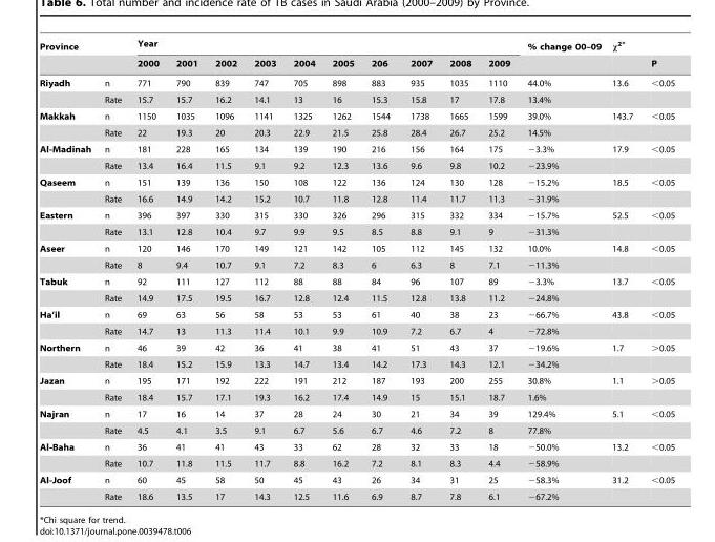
<table><thead><tr><td colspan="2">Province</td><td colspan="10">Year</td><td rowspan="2">% change 00–09</td><td rowspan="2">κ<sup>2</sup>*</td><td rowspan="2">P</td></tr><tr><td></td><td></td><td>2000</td><td>2001</td><td>2002</td><td>2003</td><td>2004</td><td>2005</td><td>206</td><td>2007</td><td>2008</td><td>2009</td></tr></thead><tbody><tr><td rowspan="2">Riyadh</td><td>n</td><td>771</td><td>790</td><td>839</td><td>747</td><td>705</td><td>898</td><td>883</td><td>935</td><td>1035</td><td>1110</td><td>44.0%</td><td>13.6</td><td>&lt;0.05</td></tr><tr><td>Rate</td><td>15.7</td><td>15.7</td><td>16.2</td><td>14.1</td><td>13</td><td>16</td><td>15.3</td><td>15.8</td><td>17</td><td>17.8</td><td>13.4%</td><td></td><td></td></tr><tr><td rowspan="2">Makkah</td><td>n</td><td>1150</td><td>1035</td><td>1096</td><td>1141</td><td>1325</td><td>1262</td><td>1544</td><td>1738</td><td>1665</td><td>1599</td><td>39.0%</td><td>143.7</td><td>&lt;0.05</td></tr><tr><td>Rate</td><td>22</td><td>19.3</td><td>20</td><td>20.3</td><td>22.9</td><td>21.5</td><td>25.8</td><td>28.4</td><td>26.7</td><td>25.2</td><td>14.5%</td><td></td><td></td></tr><tr><td rowspan="2">Al-Madinah</td><td>n</td><td>181</td><td>228</td><td>165</td><td>134</td><td>139</td><td>190</td><td>216</td><td>156</td><td>164</td><td>175</td><td>−3.3%</td><td>17.9</td><td>&lt;0.05</td></tr><tr><td>Rate</td><td>13.4</td><td>16.4</td><td>11.5</td><td>9.1</td><td>9.2</td><td>12.3</td><td>13.6</td><td>9.6</td><td>9.8</td><td>10.2</td><td>−23.9%</td><td></td><td></td></tr><tr><td rowspan="2">Qaseem</td><td>n</td><td>151</td><td>139</td><td>136</td><td>150</td><td>108</td><td>122</td><td>136</td><td>124</td><td>130</td><td>128</td><td>−15.2%</td><td>18.5</td><td>&lt;0.05</td></tr><tr><td>Rate</td><td>16.6</td><td>14.9</td><td>14.2</td><td>15.2</td><td>10.7</td><td>11.8</td><td>12.8</td><td>11.4</td><td>11.7</td><td>11.3</td><td>−31.9%</td><td></td><td></td></tr><tr><td rowspan="2">Eastern</td><td>n</td><td>396</td><td>397</td><td>330</td><td>315</td><td>330</td><td>326</td><td>296</td><td>315</td><td>332</td><td>334</td><td>−15.7%</td><td>52.5</td><td>&lt;0.05</td></tr><tr><td>Rate</td><td>13.1</td><td>12.8</td><td>10.4</td><td>9.7</td><td>9.9</td><td>9.5</td><td>8.5</td><td>8.8</td><td>9.1</td><td>9</td><td>−31.3%</td><td></td><td></td></tr><tr><td rowspan="2">Aseer</td><td>n</td><td>120</td><td>146</td><td>170</td><td>149</td><td>121</td><td>142</td><td>105</td><td>112</td><td>145</td><td>132</td><td>10.0%</td><td>14.8</td><td>&lt;0.05</td></tr><tr><td>Rate</td><td>8</td><td>9.4</td><td>10.7</td><td>9.1</td><td>7.2</td><td>8.3</td><td>6</td><td>6.3</td><td>8</td><td>7.1</td><td>−11.3%</td><td></td><td></td></tr><tr><td rowspan="2">Tabuk</td><td>n</td><td>92</td><td>111</td><td>127</td><td>112</td><td>88</td><td>88</td><td>84</td><td>96</td><td>107</td><td>89</td><td>−3.3%</td><td>13.7</td><td>&lt;0.05</td></tr><tr><td>Rate</td><td>14.9</td><td>17.5</td><td>19.5</td><td>16.7</td><td>12.8</td><td>12.4</td><td>11.5</td><td>12.8</td><td>13.8</td><td>11.2</td><td>−24.8%</td><td></td><td></td></tr><tr><td rowspan="2">Ha’il</td><td>n</td><td>69</td><td>63</td><td>56</td><td>58</td><td>53</td><td>53</td><td>61</td><td>40</td><td>38</td><td>23</td><td>−66.7%</td><td>43.8</td><td>&lt;0.05</td></tr><tr><td>Rate</td><td>14.7</td><td>13</td><td>11.3</td><td>11.4</td><td>10.1</td><td>9.9</td><td>10.9</td><td>7.2</td><td>6.7</td><td>4</td><td>−72.8%</td><td></td><td></td></tr><tr><td rowspan="2">Northern</td><td>n</td><td>46</td><td>39</td><td>42</td><td>36</td><td>41</td><td>38</td><td>41</td><td>51</td><td>43</td><td>37</td><td>−19.6%</td><td>1.7</td><td>&gt;0.05</td></tr><tr><td>Rate</td><td>18.4</td><td>15.2</td><td>15.9</td><td>13.3</td><td>14.7</td><td>13.4</td><td>14.2</td><td>17.3</td><td>14.3</td><td>12.1</td><td>−34.2%</td><td></td><td></td></tr><tr><td rowspan="2">Jazan</td><td>n</td><td>195</td><td>171</td><td>192</td><td>222</td><td>191</td><td>212</td><td>187</td><td>193</td><td>200</td><td>255</td><td>30.8%</td><td>1.1</td><td>&gt;0.05</td></tr><tr><td>Rate</td><td>18.4</td><td>15.7</td><td>17.1</td><td>19.3</td><td>16.2</td><td>17.4</td><td>14.9</td><td>15</td><td>15.1</td><td>18.7</td><td>1.6%</td><td></td><td></td></tr><tr><td rowspan="2">Najran</td><td>n</td><td>17</td><td>16</td><td>14</td><td>37</td><td>28</td><td>24</td><td>30</td><td>21</td><td>34</td><td>39</td><td>129.4%</td><td>5.1</td><td>&lt;0.05</td></tr><tr><td>Rate</td><td>4.5</td><td>4.1</td><td>3.5</td><td>9.1</td><td>6.7</td><td>5.6</td><td>6.7</td><td>4.6</td><td>7.2</td><td>8</td><td>77.8%</td><td></td><td></td></tr><tr><td rowspan="2">Al-Baha</td><td>n</td><td>36</td><td>41</td><td>41</td><td>43</td><td>33</td><td>62</td><td>28</td><td>32</td><td>33</td><td>18</td><td>−50.0%</td><td>13.2</td><td>&lt;0.05</td></tr><tr><td>Rate</td><td>10.7</td><td>11.8</td><td>11.5</td><td>11.7</td><td>8.8</td><td>16.2</td><td>7.2</td><td>8.1</td><td>8.3</td><td>4.4</td><td>−58.9%</td><td></td><td></td></tr><tr><td rowspan="2">Al-Joof</td><td>n</td><td>60</td><td>45</td><td>58</td><td>50</td><td>45</td><td>43</td><td>26</td><td>34</td><td>31</td><td>25</td><td>−58.3%</td><td>31.2</td><td>&lt;0.05</td></tr><tr><td>Rate</td><td>18.6</td><td>13.5</td><td>17</td><td>14.3</td><td>12.5</td><td>11.6</td><td>6.9</td><td>8.7</td><td>7.8</td><td>6.1</td><td>−67.2%</td><td></td><td></td></tr></tbody></table>